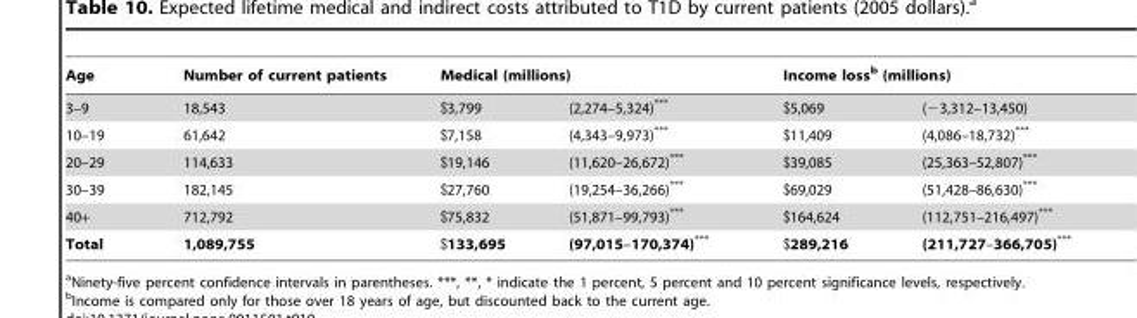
<table><thead><tr><td rowspan="2">Age 3–9</td><td rowspan="2">Number of current patients 18,543</td><td colspan="2">Medical (millions)</td><td colspan="2">Income loss<sup>b</sup> (millions)</td></tr><tr><td>$3,799</td><td>(2,274–5,324)***</td><td>$5,069</td><td>(−3,312–13,450)</td></tr></thead><tbody><tr><td>10–19</td><td>61,642</td><td>$7,158</td><td>(4,343–9,973)***</td><td>$11,409</td><td>(4,086–18,732)***</td></tr><tr><td>20–29</td><td>114,633</td><td>$19,146</td><td>(11,620–26,672)***</td><td>$39,085</td><td>(25,363–52,807)***</td></tr><tr><td>30–39</td><td>182,145</td><td>$27,760</td><td>(19,254–36,266)***</td><td>$69,029</td><td>(51,428–86,630)***</td></tr><tr><td>40+</td><td>712,792</td><td>$75,832</td><td>(51,871–99,793)***</td><td>$164,624</td><td>(112,751–216,497)***</td></tr><tr><td>Total</td><td>1,089,755</td><td>$133,695</td><td>(97,015–170,374)***</td><td>$289,216</td><td>(211,727–366,705)***</td></tr></tbody></table>